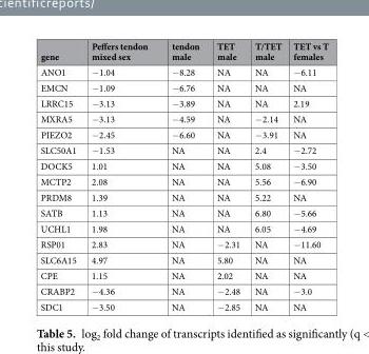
<table><thead><tr><td>gene</td><td>Peffers tendon mixed sex</td><td>tendon male</td><td>TET male</td><td>T/TET male</td><td>TET vs T females</td></tr></thead><tbody><tr><td>ANO1</td><td>−1.04</td><td>−8.28</td><td>NA</td><td>NA</td><td>−6.11</td></tr><tr><td>EMCN</td><td>−1.09</td><td>−6.76</td><td>NA</td><td>NA</td><td>NA</td></tr><tr><td>LRRC15</td><td>−3.13</td><td>−3.89</td><td>NA</td><td>NA</td><td>2.19</td></tr><tr><td>MXRA5</td><td>−3.13</td><td>−4.59</td><td>NA</td><td>−2.14</td><td>NA</td></tr><tr><td>PIEZO2</td><td>−2.45</td><td>−6.60</td><td>NA</td><td>−3.91</td><td>NA</td></tr><tr><td>SLC50A1</td><td>−1.53</td><td>NA</td><td>NA</td><td>2.4</td><td>−2.72</td></tr><tr><td>DOCK5</td><td>1.01</td><td>NA</td><td>NA</td><td>5.08</td><td>−3.50</td></tr><tr><td>MCTP2</td><td>2.08</td><td>NA</td><td>NA</td><td>5.56</td><td>−6.90</td></tr><tr><td>PRDM8</td><td>1.39</td><td>NA</td><td>NA</td><td>5.22</td><td>NA</td></tr><tr><td>SATB</td><td>1.13</td><td>NA</td><td>NA</td><td>6.80</td><td>−5.66</td></tr><tr><td>UCHL1</td><td>1.98</td><td>NA</td><td>NA</td><td>6.05</td><td>−4.69</td></tr><tr><td>RSP01</td><td>2.83</td><td>NA</td><td>−2.31</td><td>NA</td><td>−11.60</td></tr><tr><td>SLC6A15</td><td>4.97</td><td>NA</td><td>5.80</td><td>NA</td><td>NA</td></tr><tr><td>CPE</td><td>1.15</td><td>NA</td><td>2.02</td><td>NA</td><td>NA</td></tr><tr><td>CRABP2</td><td>−4.36</td><td>NA</td><td>−2.48</td><td>NA</td><td>−3.0</td></tr><tr><td>SDC1</td><td>−3.50</td><td>NA</td><td>−2.85</td><td>NA</td><td>NA</td></tr></tbody></table>